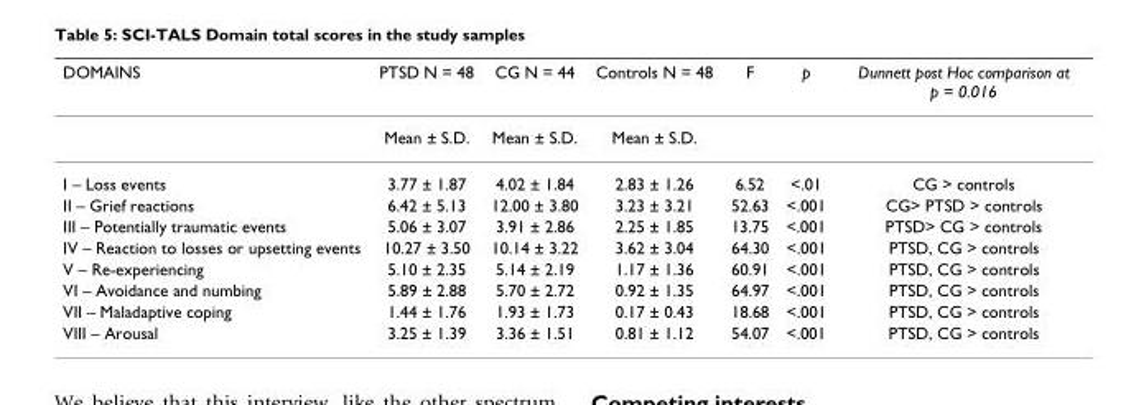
<table><thead><tr><td>DOMAINS</td><td>PTSD N = 48</td><td>CG N = 44</td><td>Controls N = 48</td><td>F</td><td>p</td><td>Dunnett post Hoc comparison at p = 0.016</td></tr></thead><tbody><tr><td></td><td>Mean ± S.D.</td><td>Mean ± S.D.</td><td>Mean ± S.D.</td><td></td><td></td><td></td></tr><tr><td>I – Loss events</td><td>3.77 ± 1.87</td><td>4.02 ± 1.84</td><td>2.83 ± 1.26</td><td>6.52</td><td>&lt;.01</td><td>CG &gt; controls</td></tr><tr><td>II – Grief reactions</td><td>6.42 ± 5.13</td><td>12.00 ± 3.80</td><td>3.23 ± 3.21</td><td>52.63</td><td>&lt;.001</td><td>CG&gt; PTSD &gt; controls</td></tr><tr><td>III – Potentially traumatic events</td><td>5.06 ± 3.07</td><td>3.91 ± 2.86</td><td>2.25 ± 1.85</td><td>13.75</td><td>&lt;.001</td><td>PTSD&gt; CG &gt; controls</td></tr><tr><td>IV – Reaction to losses or upsetting events</td><td>10.27 ± 3.50</td><td>10.14 ± 3.22</td><td>3.62 ± 3.04</td><td>64.30</td><td>&lt;.001</td><td>PTSD, CG &gt; controls</td></tr><tr><td>V – Re-experiencing</td><td>5.10 ± 2.35</td><td>5.14 ± 2.19</td><td>1.17 ± 1.36</td><td>60.91</td><td>&lt;.001</td><td>PTSD, CG &gt; controls</td></tr><tr><td>VI – Avoidance and numbing</td><td>5.89 ± 2.88</td><td>5.70 ± 2.72</td><td>0.92 ± 1.35</td><td>64.97</td><td>&lt;.001</td><td>PTSD, CG &gt; controls</td></tr><tr><td>VII – Maladaptive coping</td><td>1.44 ± 1.76</td><td>1.93 ± 1.73</td><td>0.17 ± 0.43</td><td>18.68</td><td>&lt;.001</td><td>PTSD, CG &gt; controls</td></tr><tr><td>VIII – Arousal</td><td>3.25 ± 1.39</td><td>3.36 ± 1.51</td><td>0.81 ± 1.12</td><td>54.07</td><td>&lt;.001</td><td>PTSD, CG &gt; controls</td></tr></tbody></table>